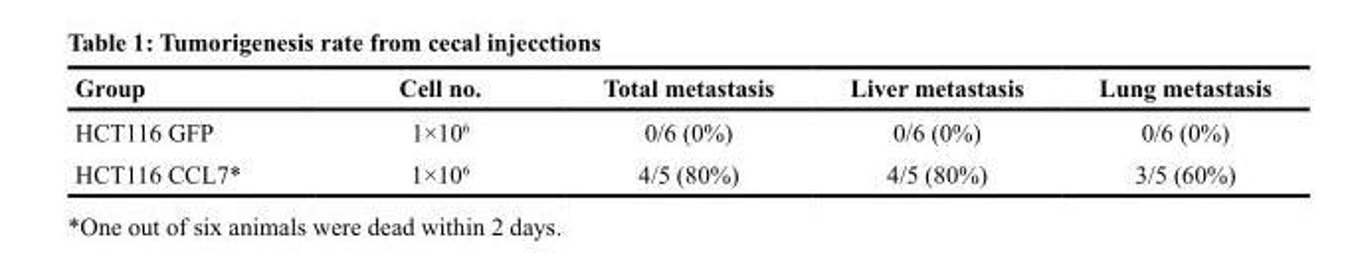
<table><thead><tr><td>Group</td><td>Cell no.</td><td>Total metastasis</td><td>Liver metastasis</td><td>Lung metastasis</td></tr></thead><tbody><tr><td>HCT116 GFP</td><td>1×10<sup>6</sup></td><td>0/6 (0%)</td><td>0/6 (0%)</td><td>0/6 (0%)</td></tr><tr><td>HCT116 CCL7*</td><td>1×10<sup>6</sup></td><td>4/5 (80%)</td><td>4/5 (80%)</td><td>3/5 (60%)</td></tr></tbody></table>